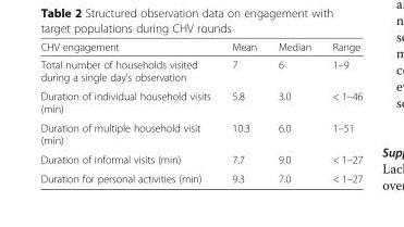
<table><thead><tr><td>CHV engagement</td><td>Mean</td><td>Median</td><td>Range</td></tr></thead><tbody><tr><td>Total number of households visited during a single day’s observation</td><td>7</td><td>6</td><td>1–9</td></tr><tr><td>Duration of individual household visits (min)</td><td>5.8</td><td>3.0</td><td>&lt; 1–46</td></tr><tr><td>Duration of multiple household visit (min)</td><td>10.3</td><td>6.0</td><td>1–51</td></tr><tr><td>Duration of informal visits (min)</td><td>7.7</td><td>9.0</td><td>&lt; 1–27</td></tr><tr><td>Duration for personal activities (min)</td><td>9.3</td><td>7.0</td><td>&lt; 1–27</td></tr></tbody></table>